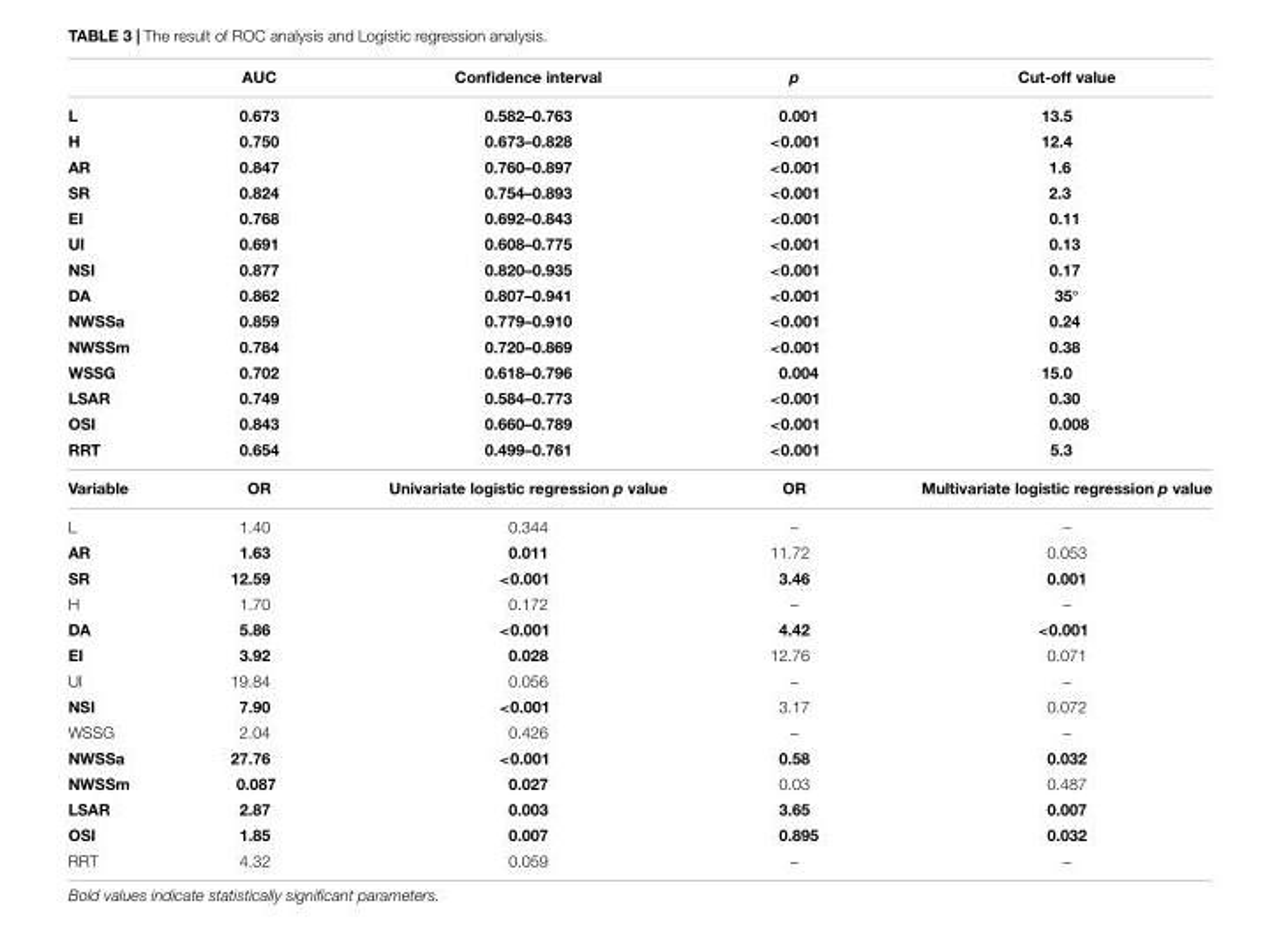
<table><thead><tr><td></td><td>AUC</td><td>Confidence interval</td><td>p</td><td>Cut-off value</td></tr></thead><tbody><tr><td>L</td><td>0.673</td><td>0.582–0.763</td><td>0.001</td><td>13.5</td></tr><tr><td>H</td><td>0.750</td><td>0.673–0.828</td><td>&lt;0.001</td><td>12.4</td></tr><tr><td>AR</td><td>0.847</td><td>0.760–0.897</td><td>&lt;0.001</td><td>1.6</td></tr><tr><td>SR</td><td>0.824</td><td>0.754–0.893</td><td>&lt;0.001</td><td>2.3</td></tr><tr><td>EI</td><td>0.768</td><td>0.692–0.843</td><td>&lt;0.001</td><td>0.11</td></tr><tr><td>UI</td><td>0.691</td><td>0.608–0.775</td><td>&lt;0.001</td><td>0.13</td></tr><tr><td>NSI</td><td>0.877</td><td>0.820–0.935</td><td>&lt;0.001</td><td>0.17</td></tr><tr><td>DA</td><td>0.862</td><td>0.807–0.941</td><td>&lt;0.001</td><td>35◦</td></tr><tr><td>NWSSa</td><td>0.859</td><td>0.779–0.910</td><td>&lt;0.001</td><td>0.24</td></tr><tr><td>NWSSm</td><td>0.784</td><td>0.720–0.869</td><td>&lt;0.001</td><td>0.38</td></tr><tr><td>WSSG</td><td>0.702</td><td>0.618–0.796</td><td>0.004</td><td>15.0</td></tr><tr><td>LSAR</td><td>0.749</td><td>0.584–0.773</td><td>&lt;0.001</td><td>0.30</td></tr><tr><td>OSI</td><td>0.843</td><td>0.660–0.789</td><td>&lt;0.001</td><td>0.008</td></tr><tr><td>RRT</td><td>0.654</td><td>0.499–0.761</td><td>&lt;0.001</td><td>5.3</td></tr><tr><td>Variable</td><td>OR</td><td>Univariate logistic regression p value</td><td>OR</td><td>Multivariate logistic regression p value</td></tr><tr><td>L</td><td>1.40</td><td>0.344</td><td>–</td><td>–</td></tr><tr><td>AR</td><td>1.63</td><td>0.011</td><td>11.72</td><td>0.053</td></tr><tr><td>SR</td><td>12.59</td><td>&lt;0.001</td><td>3.46</td><td>0.001</td></tr><tr><td>H</td><td>1.70</td><td>0.172</td><td>–</td><td>–</td></tr><tr><td>DA</td><td>5.86</td><td>&lt;0.001</td><td>4.42</td><td>&lt;0.001</td></tr><tr><td>EI</td><td>3.92</td><td>0.028</td><td>12.76</td><td>0.071</td></tr><tr><td>UI</td><td>19.84</td><td>0.056</td><td>–</td><td>–</td></tr><tr><td>NSI</td><td>7.90</td><td>&lt;0.001</td><td>3.17</td><td>0.072</td></tr><tr><td>WSSG</td><td>2.04</td><td>0.426</td><td>–</td><td>–</td></tr><tr><td>NWSSa</td><td>27.76</td><td>&lt;0.001</td><td>0.58</td><td>0.032</td></tr><tr><td>NWSSm</td><td>0.087</td><td>0.027</td><td>0.03</td><td>0.487</td></tr><tr><td>LSAR</td><td>2.87</td><td>0.003</td><td>3.65</td><td>0.007</td></tr><tr><td>OSI</td><td>1.85</td><td>0.007</td><td>0.895</td><td>0.032</td></tr><tr><td>RRT</td><td>4.32</td><td>0.059</td><td>–</td><td>–</td></tr></tbody></table>